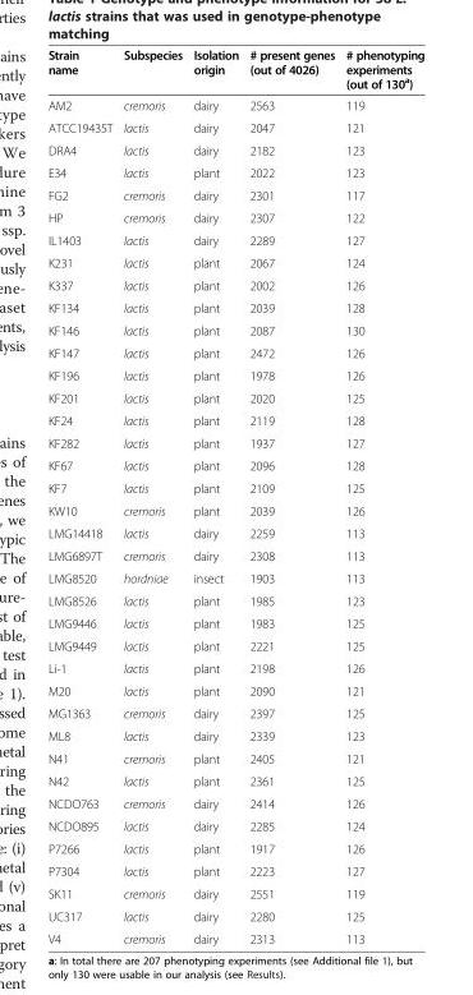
<table><thead><tr><td>Strain name</td><td>Subspecies</td><td>Isolation origin</td><td># present genes (out of 4026)</td><td># phenotyping experiments (out of 130<sup>a</sup>)</td></tr></thead><tbody><tr><td>AM2</td><td>cremoris</td><td>dairy</td><td>2563</td><td>119</td></tr><tr><td>ATCC19435T</td><td>lactis</td><td>dairy</td><td>2047</td><td>121</td></tr><tr><td>DRA4</td><td>lactis</td><td>dairy</td><td>2182</td><td>123</td></tr><tr><td>E34</td><td>lactis</td><td>plant</td><td>2022</td><td>123</td></tr><tr><td>FG2</td><td>cremoris</td><td>dairy</td><td>2301</td><td>117</td></tr><tr><td>HP</td><td>cremoris</td><td>dairy</td><td>2307</td><td>122</td></tr><tr><td>IL1403</td><td>lactis</td><td>dairy</td><td>2289</td><td>127</td></tr><tr><td>K231</td><td>lactis</td><td>plant</td><td>2067</td><td>124</td></tr><tr><td>K337</td><td>lactis</td><td>plant</td><td>2002</td><td>126</td></tr><tr><td>KF134</td><td>lactis</td><td>plant</td><td>2039</td><td>128</td></tr><tr><td>KF146</td><td>lactis</td><td>plant</td><td>2087</td><td>130</td></tr><tr><td>KF147</td><td>lactis</td><td>plant</td><td>2472</td><td>126</td></tr><tr><td>KF196</td><td>lactis</td><td>plant</td><td>1978</td><td>126</td></tr><tr><td>KF201</td><td>lactis</td><td>plant</td><td>2020</td><td>125</td></tr><tr><td>KF24</td><td>lactis</td><td>plant</td><td>2119</td><td>128</td></tr><tr><td>KF282</td><td>lactis</td><td>plant</td><td>1937</td><td>127</td></tr><tr><td>KF67</td><td>lactis</td><td>plant</td><td>2096</td><td>128</td></tr><tr><td>KF7</td><td>lactis</td><td>plant</td><td>2109</td><td>125</td></tr><tr><td>KW10</td><td>cremoris</td><td>plant</td><td>2039</td><td>126</td></tr><tr><td>LMG14418</td><td>lactis</td><td>dairy</td><td>2259</td><td>113</td></tr><tr><td>LMG6897T</td><td>cremoris</td><td>dairy</td><td>2308</td><td>113</td></tr><tr><td>LMG8520</td><td>hordniae</td><td>insect</td><td>1903</td><td>113</td></tr><tr><td>LMG8526</td><td>lactis</td><td>plant</td><td>1985</td><td>123</td></tr><tr><td>LMG9446</td><td>lactis</td><td>plant</td><td>1983</td><td>125</td></tr><tr><td>LMG9449</td><td>lactis</td><td>plant</td><td>2221</td><td>125</td></tr><tr><td>Li-1</td><td>lactis</td><td>plant</td><td>2198</td><td>126</td></tr><tr><td>M20</td><td>lactis</td><td>plant</td><td>2090</td><td>121</td></tr><tr><td>MG1363</td><td>cremoris</td><td>dairy</td><td>2397</td><td>125</td></tr><tr><td>ML8</td><td>lactis</td><td>dairy</td><td>2339</td><td>123</td></tr><tr><td>N41</td><td>cremoris</td><td>plant</td><td>2405</td><td>121</td></tr><tr><td>N42</td><td>lactis</td><td>plant</td><td>2361</td><td>125</td></tr><tr><td>NCDO763</td><td>cremoris</td><td>dairy</td><td>2414</td><td>126</td></tr><tr><td>NCDO895</td><td>lactis</td><td>dairy</td><td>2285</td><td>124</td></tr><tr><td>P7266</td><td>lactis</td><td>plant</td><td>1917</td><td>126</td></tr><tr><td>P7304</td><td>lactis</td><td>plant</td><td>2223</td><td>127</td></tr><tr><td>SK11</td><td>cremoris</td><td>dairy</td><td>2551</td><td>119</td></tr><tr><td>UC317</td><td>lactis</td><td>dairy</td><td>2280</td><td>125</td></tr><tr><td>V4</td><td>cremoris</td><td>dairy</td><td>2313</td><td>113</td></tr></tbody></table>